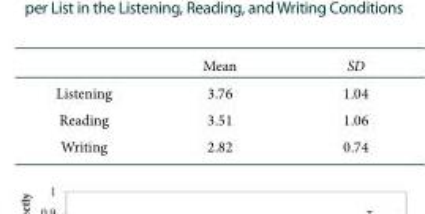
<table><thead><tr><td></td><td>Mean</td><td>SD</td></tr></thead><tbody><tr><td>Listening</td><td>3.76</td><td>1.04</td></tr><tr><td>Reading</td><td>3.51</td><td>1.06</td></tr><tr><td>Writing</td><td>2.82</td><td>0.74</td></tr></tbody></table>